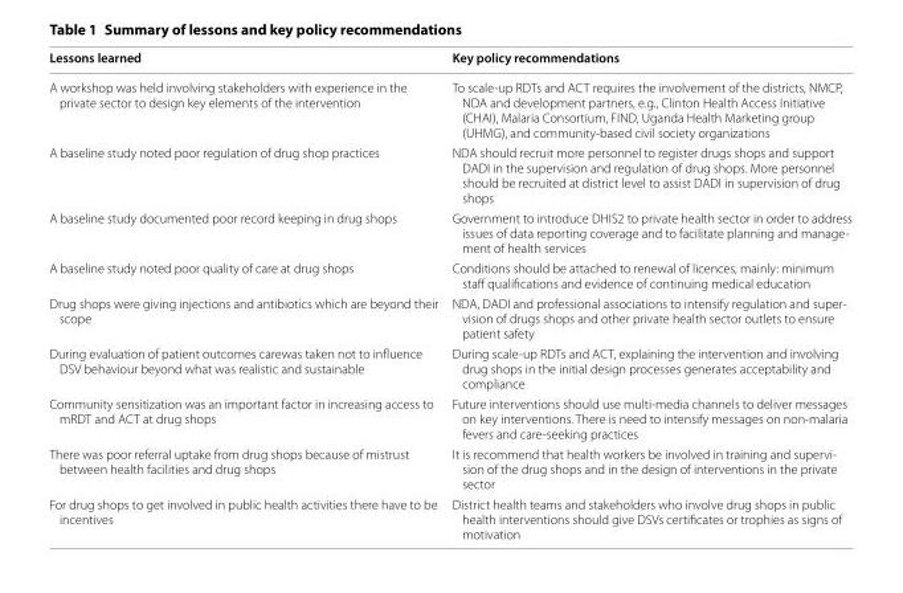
<table><thead><tr><td>Lessons learned</td><td>Key policy recommendations</td></tr></thead><tbody><tr><td>A workshop was held involving stakeholders with experience in the private sector to design key elements of the intervention</td><td>To scale-up RDTs and ACT requires the involvement of the districts, NMCP, NDA and development partners, e.g., Clinton Health Access Initiative (CHAI), Malaria Consortium, FIND, Uganda Health Marketing group (UHMG), and community-based civil society organizations</td></tr><tr><td>A baseline study noted poor regulation of drug shop practices</td><td>NDA should recruit more personnel to register drugs shops and support DADI in the supervision and regulation of drug shops. More personnel should be recruited at district level to assist DADI in supervision of drug shops</td></tr><tr><td>A baseline study documented poor record keeping in drug shops</td><td>Government to introduce DHIS2 to private health sector in order to address issues of data reporting coverage and to facilitate planning and manage- ment of health services</td></tr><tr><td>A baseline study noted poor quality of care at drug shops</td><td>Conditions should be attached to renewal of licences, mainly: minimum staff qualifications and evidence of continuing medical education</td></tr><tr><td>Drug shops were giving injections and antibiotics which are beyond their scope</td><td>NDA, DADI and professional associations to intensify regulation and super- vision of drugs shops and other private health sector outlets to ensure patient safety</td></tr><tr><td>During evaluation of patient outcomes carewas taken not to influence DSV behaviour beyond what was realistic and sustainable</td><td>During scale-up RDTs and ACT, explaining the intervention and involving drug shops in the initial design processes generates acceptability and compliance</td></tr><tr><td>Community sensitization was an important factor in increasing access to mRDT and ACT at drug shops</td><td>Future interventions should use multi-media channels to deliver messages on key interventions. There is need to intensify messages on non-malaria fevers and care-seeking practices</td></tr><tr><td>There was poor referral uptake from drug shops because of mistrust between health facilities and drug shops</td><td>It is recommend that health workers be involved in training and supervi- sion of the drug shops and in the design of interventions in the private sector</td></tr><tr><td>For drug shops to get involved in public health activities there have to be incentives</td><td>District health teams and stakeholders who involve drug shops in public health interventions should give DSVs certificates or trophies as signs of motivation</td></tr></tbody></table>